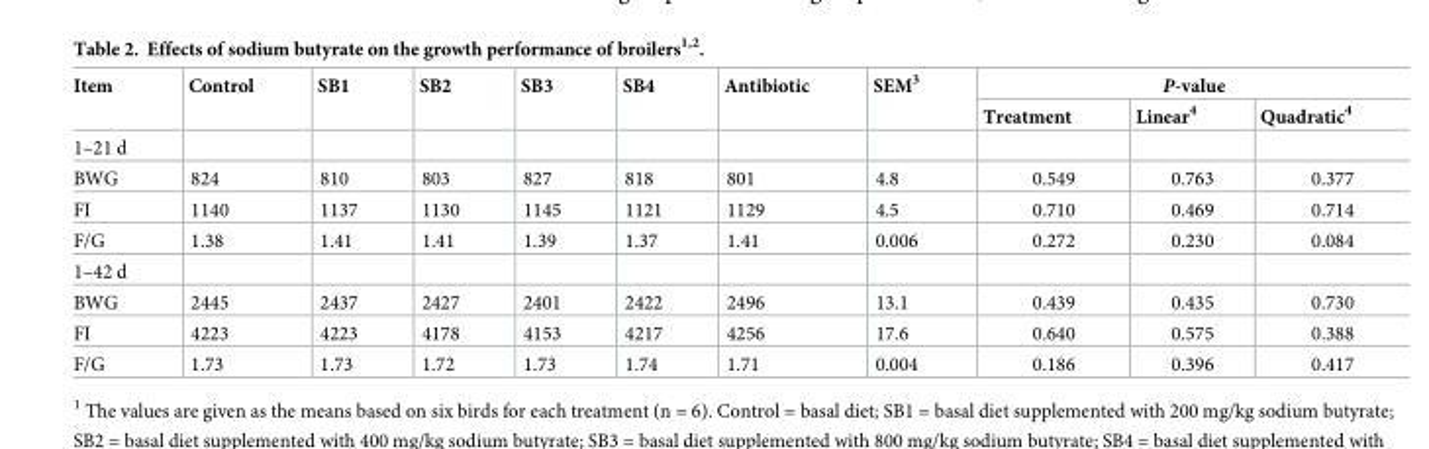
<table><thead><tr><td rowspan="2">Item</td><td rowspan="2">Control</td><td rowspan="2">SB1</td><td rowspan="2">SB2</td><td rowspan="2">SB3</td><td rowspan="2">SB4</td><td rowspan="2">Antibiotic</td><td rowspan="2">SEM<sup>3</sup></td><td colspan="3">P-value</td></tr><tr><td>Treatment</td><td>Linear<sup>4</sup></td><td>Quadratic<sup>4</sup></td></tr></thead><tbody><tr><td colspan="11">1–21 d</td></tr><tr><td>BWG</td><td>824</td><td>810</td><td>803</td><td>827</td><td>818</td><td>801</td><td>4.8</td><td>0.549</td><td>0.763</td><td>0.377</td></tr><tr><td>FI</td><td>1140</td><td>1137</td><td>1130</td><td>1145</td><td>1121</td><td>1129</td><td>4.5</td><td>0.710</td><td>0.469</td><td>0.714</td></tr><tr><td>F/G</td><td>1.38</td><td>1.41</td><td>1.41</td><td>1.39</td><td>1.37</td><td>1.41</td><td>0.006</td><td>0.272</td><td>0.230</td><td>0.084</td></tr><tr><td colspan="11">1–42 d</td></tr><tr><td>BWG</td><td>2445</td><td>2437</td><td>2427</td><td>2401</td><td>2422</td><td>2496</td><td>13.1</td><td>0.439</td><td>0.435</td><td>0.730</td></tr><tr><td>FI</td><td>4223</td><td>4223</td><td>4178</td><td>4153</td><td>4217</td><td>4256</td><td>17.6</td><td>0.640</td><td>0.575</td><td>0.388</td></tr><tr><td>F/G</td><td>1.73</td><td>1.73</td><td>1.72</td><td>1.73</td><td>1.74</td><td>1.71</td><td>0.004</td><td>0.186</td><td>0.396</td><td>0.417</td></tr></tbody></table>